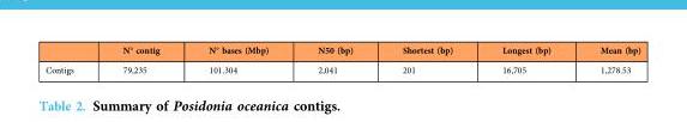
<table><thead><tr><td></td><td>N° contig</td><td>N° bases (Mbp)</td><td>N50 (bp)</td><td>Shortest (bp)</td><td>Longest (bp)</td><td>Mean (bp)</td></tr></thead><tbody><tr><td>Contigs</td><td>79,235</td><td>101.304</td><td>2,041</td><td>201</td><td>16,705</td><td>1,278.53</td></tr></tbody></table>